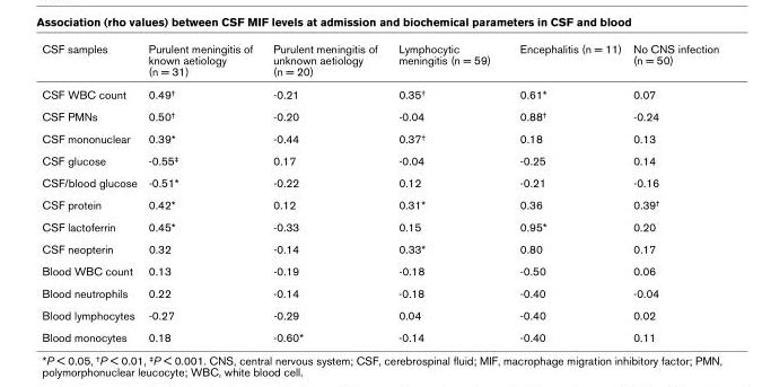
<table><thead><tr><td>CSF samples</td><td>Purulent meningitis of known aetiology (n = 31)</td><td>Purulent meningitis of unknown aetiology (n = 20)</td><td>Lymphocytic meningitis (n = 59)</td><td>Encephalitis (n = 11)</td><td>No CNS infection (n = 50)</td></tr></thead><tbody><tr><td>CSF WBC count</td><td>0.49<sup>†</sup></td><td>-0.21</td><td>0.35<sup>†</sup></td><td>0.61*</td><td>0.07</td></tr><tr><td>CSF PMNs</td><td>0.50<sup>†</sup></td><td>-0.20</td><td>-0.04</td><td>0.88<sup>†</sup></td><td>-0.24</td></tr><tr><td>CSF mononuclear</td><td>0.39*</td><td>-0.44</td><td>0.37<sup>†</sup></td><td>0.18</td><td>0.13</td></tr><tr><td>CSF glucose</td><td>-0.55<sup>‡</sup></td><td>0.17</td><td>-0.04</td><td>-0.25</td><td>0.14</td></tr><tr><td>CSF/blood glucose</td><td>-0.51*</td><td>-0.22</td><td>0.12</td><td>-0.21</td><td>-0.16</td></tr><tr><td>CSF protein</td><td>0.42*</td><td>0.12</td><td>0.31*</td><td>0.36</td><td>0.39<sup>†</sup></td></tr><tr><td>CSF lactoferrin</td><td>0.45*</td><td>-0.33</td><td>0.15</td><td>0.95*</td><td>0.20</td></tr><tr><td>CSF neopterin</td><td>0.32</td><td>-0.14</td><td>0.33*</td><td>0.80</td><td>0.17</td></tr><tr><td>Blood WBC count</td><td>0.13</td><td>-0.19</td><td>-0.18</td><td>-0.50</td><td>0.06</td></tr><tr><td>Blood neutrophils</td><td>0.22</td><td>-0.14</td><td>-0.18</td><td>-0.40</td><td>-0.04</td></tr><tr><td>Blood lymphocytes</td><td>-0.27</td><td>-0.29</td><td>0.04</td><td>-0.40</td><td>0.02</td></tr><tr><td>Blood monocytes</td><td>0.18</td><td>-0.60*</td><td>-0.14</td><td>-0.40</td><td>0.11</td></tr></tbody></table>